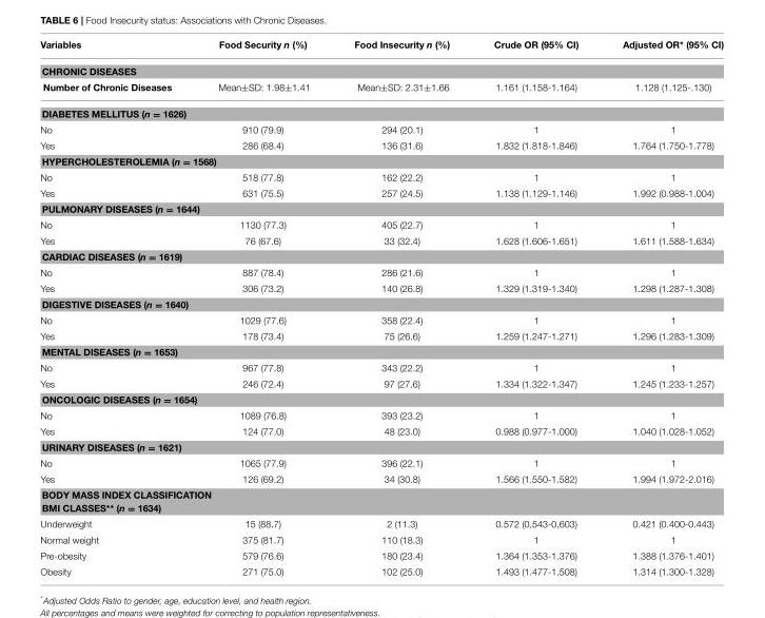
<table><thead><tr><td>Variables</td><td>Food Security n (%)</td><td>Food Insecurity n (%)</td><td>Crude OR (95% CI)</td><td>Adjusted OR* (95% CI)</td></tr></thead><tbody><tr><td colspan="5">CHRONIC DISEASES</td></tr><tr><td>Number of Chronic Diseases</td><td>Mean±SD: 1.98±1.41</td><td>Mean±SD: 2.31±1.66</td><td>1.161 (1.158-1.164)</td><td>1.128 (1.125-.130)</td></tr><tr><td colspan="5">DIABETES MELLITUS (n = 1626)</td></tr><tr><td>No</td><td>910 (79.9)</td><td>294 (20.1)</td><td>1</td><td>1</td></tr><tr><td>Yes</td><td>286 (68.4)</td><td>136 (31.6)</td><td>1.832 (1.818-1.846)</td><td>1.764 (1.750-1.778)</td></tr><tr><td colspan="5">HYPERCHOLESTEROLEMIA (n = 1568)</td></tr><tr><td>No</td><td>518 (77.8)</td><td>162 (22.2)</td><td>1</td><td>1</td></tr><tr><td>Yes</td><td>631 (75.5)</td><td>257 (24.5)</td><td>1.138 (1.129-1.146)</td><td>1.992 (0.988-1.004)</td></tr><tr><td colspan="5">PULMONARY DISEASES (n = 1644)</td></tr><tr><td>No</td><td>1130 (77.3)</td><td>405 (22.7)</td><td>1</td><td>1</td></tr><tr><td>Yes</td><td>76 (67.6)</td><td>33 (32.4)</td><td>1.628 (1.606-1.651)</td><td>1.611 (1.588-1.634)</td></tr><tr><td colspan="5">CARDIAC DISEASES (n = 1619)</td></tr><tr><td>No</td><td>887 (78.4)</td><td>286 (21.6)</td><td>1</td><td>1</td></tr><tr><td>Yes</td><td>306 (73.2)</td><td>140 (26.8)</td><td>1.329 (1.319-1.340)</td><td>1.298 (1.287-1.308)</td></tr><tr><td colspan="5">DIGESTIVE DISEASES (n = 1640)</td></tr><tr><td>No</td><td>1029 (77.6)</td><td>358 (22.4)</td><td>1</td><td>1</td></tr><tr><td>Yes</td><td>178 (73.4)</td><td>75 (26.6)</td><td>1.259 (1.247-1.271)</td><td>1.296 (1.283-1.309)</td></tr><tr><td colspan="5">MENTAL DISEASES (n = 1653)</td></tr><tr><td>No</td><td>967 (77.8)</td><td>343 (22.2)</td><td>1</td><td>1</td></tr><tr><td>Yes</td><td>246 (72.4)</td><td>97 (27.6)</td><td>1.334 (1.322-1.347)</td><td>1.245 (1.233-1.257)</td></tr><tr><td colspan="5">ONCOLOGIC DISEASES (n = 1654)</td></tr><tr><td>No</td><td>1089 (76.8)</td><td>393 (23.2)</td><td>1</td><td>1</td></tr><tr><td>Yes</td><td>124 (77.0)</td><td>48 (23.0)</td><td>0.988 (0.977-1.000)</td><td>1.040 (1.028-1.052)</td></tr><tr><td colspan="5">URINARY DISEASES (n = 1621)</td></tr><tr><td>No</td><td>1065 (77.9)</td><td>396 (22.1)</td><td>1</td><td>1</td></tr><tr><td>Yes</td><td>126 (69.2)</td><td>34 (30.8)</td><td>1.566 (1.550-1.582)</td><td>1.994 (1.972-2.016)</td></tr><tr><td colspan="5">BODY MASS INDEX CLASSIFICATION</td></tr><tr><td colspan="5">BMI CLASSES** (n = 1634)</td></tr><tr><td>Underweight</td><td>15 (88.7)</td><td>2 (11.3)</td><td>0.572 (0,543-0,603)</td><td>0.421 (0.400-0.443)</td></tr><tr><td>Normal weight</td><td>375 (81.7)</td><td>110 (18.3)</td><td>1</td><td>1</td></tr><tr><td>Pre-obesity</td><td>579 (76.6)</td><td>180 (23.4)</td><td>1.364 (1.353-1.376)</td><td>1.388 (1.376-1.401)</td></tr><tr><td>Obesity</td><td>271 (75.0)</td><td>102 (25.0)</td><td>1.493 (1.477-1.508)</td><td>1.314 (1.300-1.328)</td></tr></tbody></table>